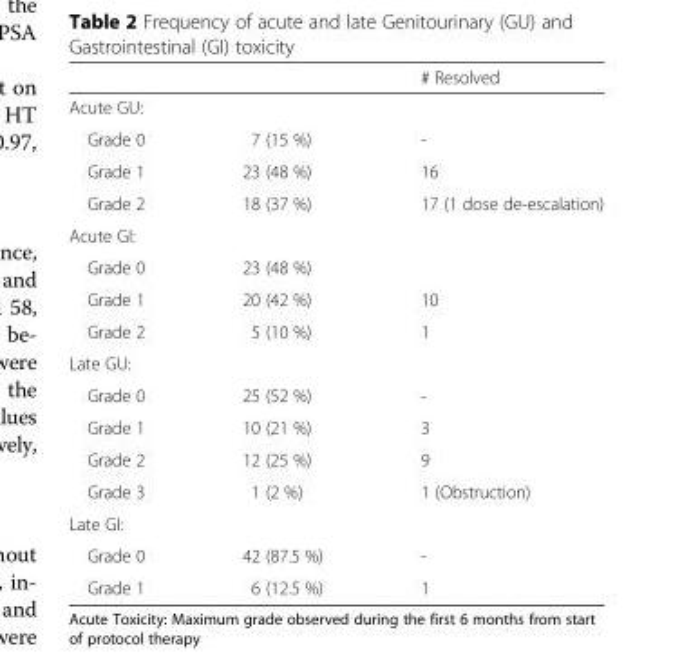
<table><thead><tr><td></td><td></td><td># Resolved</td></tr></thead><tbody><tr><td colspan="3">Acute GU:</td></tr><tr><td>Grade 0</td><td>7 (15 %)</td><td>-</td></tr><tr><td>Grade 1</td><td>23 (48 %)</td><td>16</td></tr><tr><td>Grade 2</td><td>18 (37 %)</td><td>17 (1 dose de-escalation)</td></tr><tr><td colspan="3">Acute GI:</td></tr><tr><td>Grade 0</td><td>23 (48 %)</td><td></td></tr><tr><td>Grade 1</td><td>20 (42 %)</td><td>10</td></tr><tr><td>Grade 2</td><td>5 (10 %)</td><td>1</td></tr><tr><td colspan="3">Late GU:</td></tr><tr><td>Grade 0</td><td>25 (52 %)</td><td>-</td></tr><tr><td>Grade 1</td><td>10 (21 %)</td><td>3</td></tr><tr><td>Grade 2</td><td>12 (25 %)</td><td>9</td></tr><tr><td>Grade 3</td><td>1 (2 %)</td><td>1 (Obstruction)</td></tr><tr><td colspan="3">Late GI:</td></tr><tr><td>Grade 0</td><td>42 (87.5 %)</td><td>-</td></tr><tr><td>Grade 1</td><td>6 (12.5 %)</td><td>1</td></tr></tbody></table>